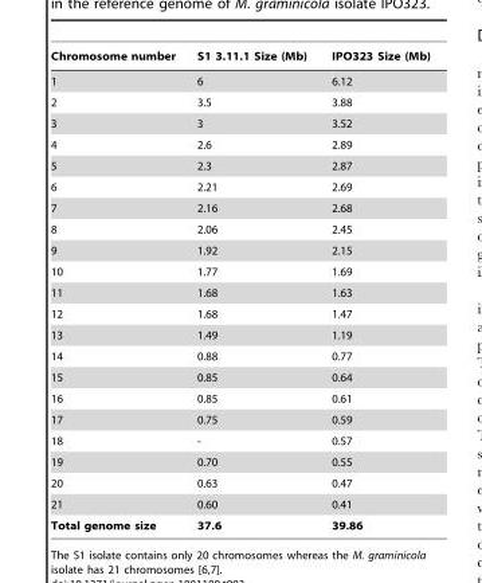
<table><thead><tr><td>Chromosome number</td><td>S1 3.11.1 Size (Mb)</td><td>IPO323 Size (Mb)</td></tr></thead><tbody><tr><td>1</td><td>6</td><td>6.12</td></tr><tr><td>2</td><td>3.5</td><td>3.88</td></tr><tr><td>3</td><td>3</td><td>3.52</td></tr><tr><td>4</td><td>2.6</td><td>2.89</td></tr><tr><td>5</td><td>2.3</td><td>2.87</td></tr><tr><td>6</td><td>2.21</td><td>2.69</td></tr><tr><td>7</td><td>2.16</td><td>2.68</td></tr><tr><td>8</td><td>2.06</td><td>2.45</td></tr><tr><td>9</td><td>1.92</td><td>2.15</td></tr><tr><td>10</td><td>1.77</td><td>1.69</td></tr><tr><td>11</td><td>1.68</td><td>1.63</td></tr><tr><td>12</td><td>1.68</td><td>1.47</td></tr><tr><td>13</td><td>1.49</td><td>1.19</td></tr><tr><td>14</td><td>0.88</td><td>0.77</td></tr><tr><td>15</td><td>0.85</td><td>0.64</td></tr><tr><td>16</td><td>0.85</td><td>0.61</td></tr><tr><td>17</td><td>0.75</td><td>0.59</td></tr><tr><td>18</td><td>-</td><td>0.57</td></tr><tr><td>19</td><td>0.70</td><td>0.55</td></tr><tr><td>20</td><td>0.63</td><td>0.47</td></tr><tr><td>21</td><td>0.60</td><td>0.41</td></tr><tr><td>Total genome size</td><td>37.6</td><td>39.86</td></tr></tbody></table>